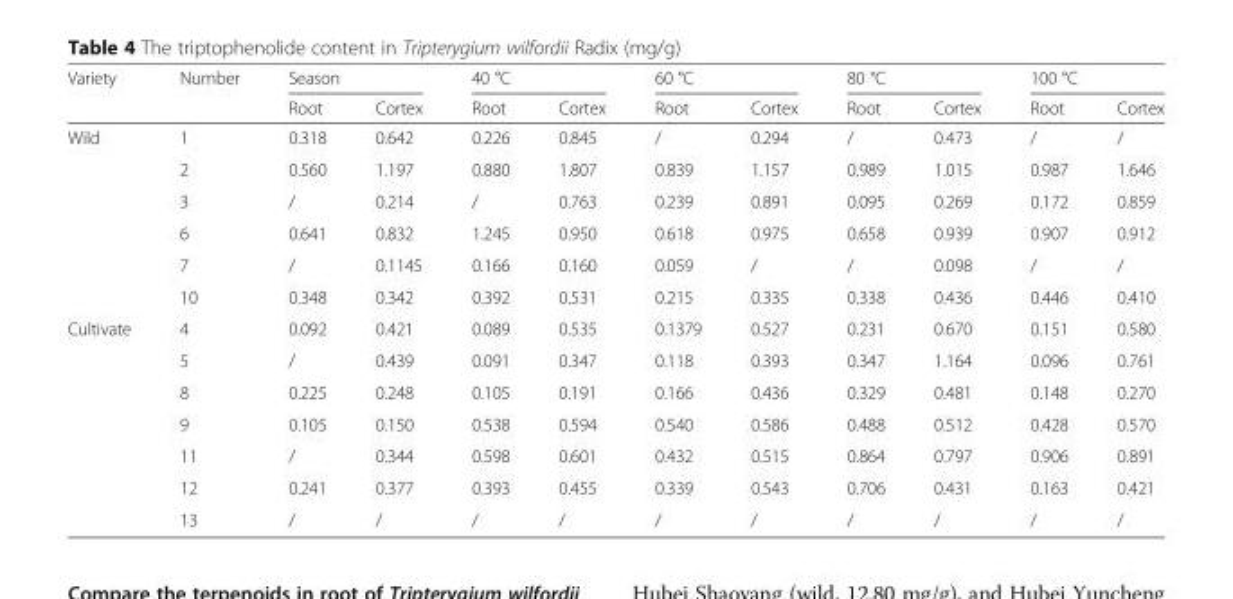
<table><thead><tr><td rowspan="2">Variety</td><td rowspan="2">Number</td><td colspan="2">Season</td><td colspan="2">40 °C</td><td colspan="2">60 °C</td><td colspan="2">80 °C</td><td colspan="2">100 °C</td></tr><tr><td>Root</td><td>Cortex</td><td>Root</td><td>Cortex</td><td>Root</td><td>Cortex</td><td>Root</td><td>Cortex</td><td>Root</td><td>Cortex</td></tr></thead><tbody><tr><td rowspan="6">Wild</td><td>1</td><td>0.318</td><td>0.642</td><td>0.226</td><td>0.845</td><td>/</td><td>0.294</td><td>/</td><td>0.473</td><td>/</td><td>/</td></tr><tr><td>2</td><td>0.560</td><td>1.197</td><td>0.880</td><td>1.807</td><td>0.839</td><td>1.157</td><td>0.989</td><td>1.015</td><td>0.987</td><td>1.646</td></tr><tr><td>3</td><td>/</td><td>0.214</td><td>/</td><td>0.763</td><td>0.239</td><td>0.891</td><td>0.095</td><td>0.269</td><td>0.172</td><td>0.859</td></tr><tr><td>6</td><td>0.641</td><td>0.832</td><td>1.245</td><td>0.950</td><td>0.618</td><td>0.975</td><td>0.658</td><td>0.939</td><td>0.907</td><td>0.912</td></tr><tr><td>7</td><td>/</td><td>0.1145</td><td>0.166</td><td>0.160</td><td>0.059</td><td>/</td><td>/</td><td>0.098</td><td>/</td><td>/</td></tr><tr><td>10</td><td>0.348</td><td>0.342</td><td>0.392</td><td>0.531</td><td>0.215</td><td>0.335</td><td>0.338</td><td>0.436</td><td>0.446</td><td>0.410</td></tr><tr><td rowspan="7">Cultivate</td><td>4</td><td>0.092</td><td>0.421</td><td>0.089</td><td>0.535</td><td>0.1379</td><td>0.527</td><td>0.231</td><td>0.670</td><td>0.151</td><td>0.580</td></tr><tr><td>5</td><td>/</td><td>0.439</td><td>0.091</td><td>0.347</td><td>0.118</td><td>0.393</td><td>0.347</td><td>1.164</td><td>0.096</td><td>0.761</td></tr><tr><td>8</td><td>0.225</td><td>0.248</td><td>0.105</td><td>0.191</td><td>0.166</td><td>0.436</td><td>0.329</td><td>0.481</td><td>0.148</td><td>0.270</td></tr><tr><td>9</td><td>0.105</td><td>0.150</td><td>0.538</td><td>0.594</td><td>0.540</td><td>0.586</td><td>0.488</td><td>0.512</td><td>0.428</td><td>0.570</td></tr><tr><td>11</td><td>/</td><td>0.344</td><td>0.598</td><td>0.601</td><td>0.432</td><td>0.515</td><td>0.864</td><td>0.797</td><td>0.906</td><td>0.891</td></tr><tr><td>12</td><td>0.241</td><td>0.377</td><td>0.393</td><td>0.455</td><td>0.339</td><td>0.543</td><td>0.706</td><td>0.431</td><td>0.163</td><td>0.421</td></tr><tr><td>13</td><td>/</td><td>/</td><td>/</td><td>/</td><td>/</td><td>/</td><td>/</td><td>/</td><td>/</td><td>/</td></tr></tbody></table>